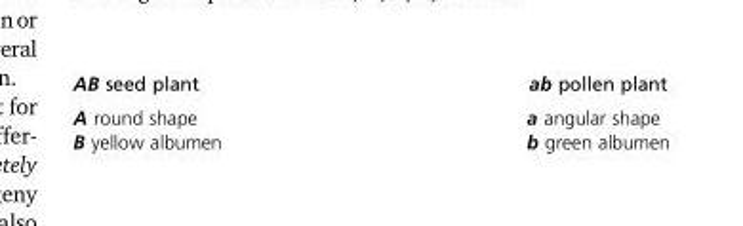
<table><thead><tr><td>AB seed plant</td><td>ab pollen plant</td></tr></thead><tbody><tr><td>A round shape</td><td>a angular shape</td></tr><tr><td>B yellow albumen</td><td>b green albumen</td></tr></tbody></table>